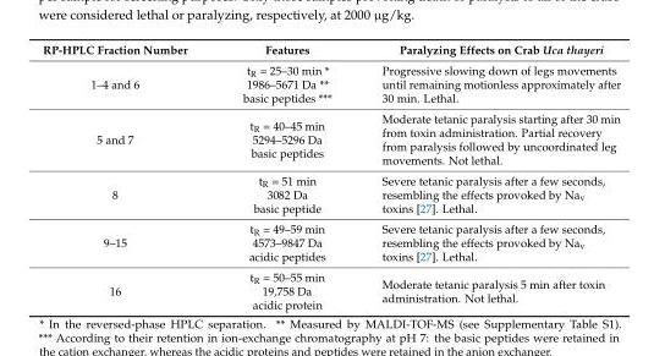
<table><thead><tr><td>RP-HPLC Fraction Number</td><td>Features</td><td>Paralyzing Effects on Crab Uca thayeri</td></tr></thead><tbody><tr><td>1–4 and 6</td><td>t<sub>R</sub> = 25–30 min * 1986–5671 Da ** basic peptides ***</td><td>Progressive slowing down of legs movements until remaining motionless approximately after 30 min. Lethal.</td></tr><tr><td>5 and 7</td><td>t<sub>R</sub> = 40–45 min 5294–5296 Da basic peptides</td><td>Moderate tetanic paralysis starting after 30 min from toxin administration. Partial recovery from paralysis followed by uncoordinated leg movements. Not lethal.</td></tr><tr><td>8</td><td>t<sub>R</sub> = 51 min 3082 Da basic peptide</td><td>Severe tetanic paralysis after a few seconds, resembling the effects provoked by Na<sub>v</sub> toxins [27]. Lethal.</td></tr><tr><td>9–15</td><td>t<sub>R</sub> = 49–59 min 4573–9847 Da acidic peptides</td><td>Severe tetanic paralysis after a few seconds, resembling the effects provoked by Na<sub>v</sub> toxins [27]. Lethal.</td></tr><tr><td>16</td><td>t<sub>R</sub> = 50–55 min 19,758 Da acidic protein</td><td>Moderate tetanic paralysis 5 min after toxin administration. Not lethal.</td></tr></tbody></table>